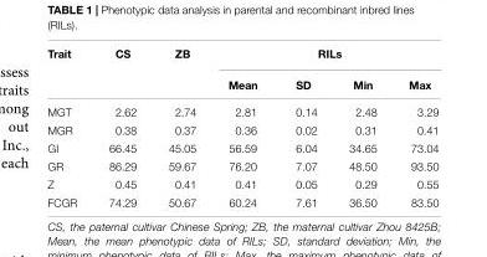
<table><thead><tr><td rowspan="2">Trait</td><td rowspan="2">CS</td><td rowspan="2">ZB</td><td colspan="4">RILs</td></tr><tr><td>Mean</td><td>SD</td><td>Min</td><td>Max</td></tr></thead><tbody><tr><td>MGT</td><td>2.62</td><td>2.74</td><td>2.81</td><td>0.14</td><td>2.48</td><td>3.29</td></tr><tr><td>MGR</td><td>0.38</td><td>0.37</td><td>0.36</td><td>0.02</td><td>0.31</td><td>0.41</td></tr><tr><td>GI</td><td>66.45</td><td>45.05</td><td>56.59</td><td>6.04</td><td>34.65</td><td>73.04</td></tr><tr><td>GR</td><td>86.29</td><td>59.67</td><td>76.20</td><td>7.07</td><td>48.50</td><td>93.50</td></tr><tr><td>Z</td><td>0.45</td><td>0.41</td><td>0.41</td><td>0.05</td><td>0.29</td><td>0.55</td></tr><tr><td>FCGR</td><td>74.29</td><td>50.67</td><td>60.24</td><td>7.61</td><td>36.50</td><td>83.50</td></tr></tbody></table>